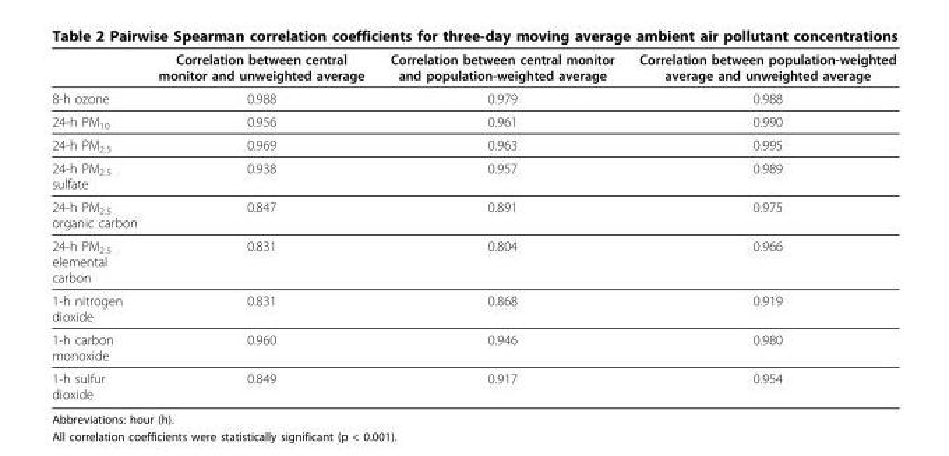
<table><thead><tr><td></td><td>Correlation between central monitor and unweighted average</td><td>Correlation between central monitor and population-weighted average</td><td>Correlation between population-weighted average and unweighted average</td></tr></thead><tbody><tr><td>8-h ozone</td><td>0.988</td><td>0.979</td><td>0.988</td></tr><tr><td>24-h PM<sub>10</sub></td><td>0.956</td><td>0.961</td><td>0.990</td></tr><tr><td>24-h PM<sub>2.5</sub></td><td>0.969</td><td>0.963</td><td>0.995</td></tr><tr><td>24-h PM<sub>2.5</sub> sulfate</td><td>0.938</td><td>0.957</td><td>0.989</td></tr><tr><td>24-h PM<sub>2.5</sub> organic carbon</td><td>0.847</td><td>0.891</td><td>0.975</td></tr><tr><td>24-h PM<sub>2.5</sub> elemental carbon</td><td>0.831</td><td>0.804</td><td>0.966</td></tr><tr><td>1-h nitrogen dioxide</td><td>0.831</td><td>0.868</td><td>0.919</td></tr><tr><td>1-h carbon monoxide</td><td>0.960</td><td>0.946</td><td>0.980</td></tr><tr><td>1-h sulfur dioxide</td><td>0.849</td><td>0.917</td><td>0.954</td></tr></tbody></table>